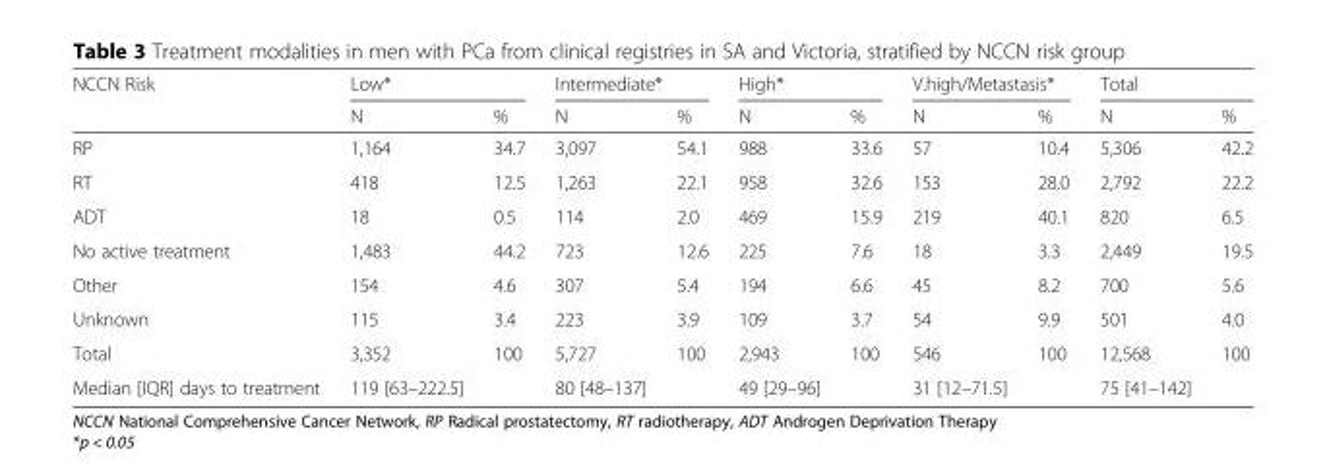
<table><thead><tr><td rowspan="2">NCCN Risk</td><td colspan="2">Low*</td><td colspan="2">Intermediate*</td><td colspan="2">High*</td><td colspan="2">V.high/Metastasis*</td><td colspan="2">Total</td></tr><tr><td>N</td><td>%</td><td>N</td><td>%</td><td>N</td><td>%</td><td>N</td><td>%</td><td>N</td><td>%</td></tr></thead><tbody><tr><td>RP</td><td>1,164</td><td>34.7</td><td>3,097</td><td>54.1</td><td>988</td><td>33.6</td><td>57</td><td>10.4</td><td>5,306</td><td>42.2</td></tr><tr><td>RT</td><td>418</td><td>12.5</td><td>1,263</td><td>22.1</td><td>958</td><td>32.6</td><td>153</td><td>28.0</td><td>2,792</td><td>22.2</td></tr><tr><td>ADT</td><td>18</td><td>0.5</td><td>114</td><td>2.0</td><td>469</td><td>15.9</td><td>219</td><td>40.1</td><td>820</td><td>6.5</td></tr><tr><td>No active treatment</td><td>1,483</td><td>44.2</td><td>723</td><td>12.6</td><td>225</td><td>7.6</td><td>18</td><td>3.3</td><td>2,449</td><td>19.5</td></tr><tr><td>Other</td><td>154</td><td>4.6</td><td>307</td><td>5.4</td><td>194</td><td>6.6</td><td>45</td><td>8.2</td><td>700</td><td>5.6</td></tr><tr><td>Unknown</td><td>115</td><td>3.4</td><td>223</td><td>3.9</td><td>109</td><td>3.7</td><td>54</td><td>9.9</td><td>501</td><td>4.0</td></tr><tr><td>Total</td><td>3,352</td><td>100</td><td>5,727</td><td>100</td><td>2,943</td><td>100</td><td>546</td><td>100</td><td>12,568</td><td>100</td></tr><tr><td>Median [IQR] days to treatment</td><td>119 [63–222.5]</td><td></td><td>80 [48–137]</td><td></td><td>49 [29–96]</td><td></td><td>31 [12–71.5]</td><td></td><td>75 [41–142]</td><td></td></tr></tbody></table>